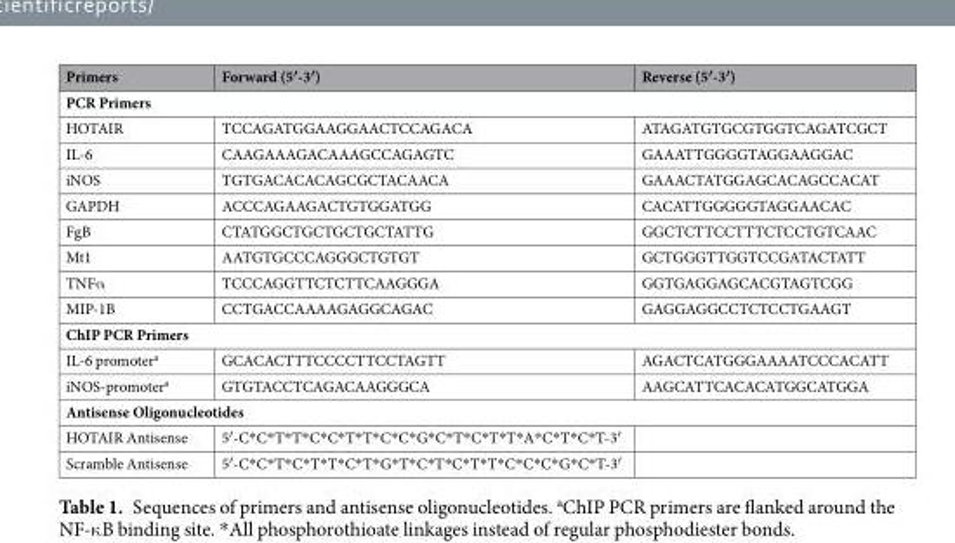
<table><thead><tr><td>Primers</td><td>Forward (5′-3′)</td><td>Reverse (5′-3′)</td></tr></thead><tbody><tr><td colspan="3">PCR Primers</td></tr><tr><td>HOTAIR</td><td>TCCAGATGGAAGGAACTCCAGACA</td><td>ATAGATGTGCGTGGTCAGATCGCT</td></tr><tr><td>IL-6</td><td>CAAGAAAGACAAAGCCAGAGTC</td><td>GAAATTGGGGTAGGAAGGAC</td></tr><tr><td>iNOS</td><td>TGTGACACACAGCGCTACAACA</td><td>GAAACTATGGAGCACAGCCACAT</td></tr><tr><td>GAPDH</td><td>ACCCAGAAGACTGTGGATGG</td><td>CACATTGGGGGTAGGAACAC</td></tr><tr><td>FgB</td><td>CTATGGCTGCTGCTGCTATTG</td><td>GGCTCTTCCTTTCTCCTGTCAAC</td></tr><tr><td>Mt1</td><td>AATGTGCCCAGGGCTGTGT</td><td>GCTGGGTTGGTCCGATACTATT</td></tr><tr><td>TNFα</td><td>TCCCAGGTTCTCTTCAAGGGA</td><td>GGTGAGGAGCACGTAGTCGG</td></tr><tr><td>MIP-1B</td><td>CCTGACCAAAAGAGGCAGAC</td><td>GAGGAGGCCTCTCCTGAAGT</td></tr><tr><td colspan="3">ChIP PCR Primers</td></tr><tr><td>IL-6 promoter<sup>a</sup></td><td>GCACACTTTCCCCTTCCTAGTT</td><td>AGACTCATGGGAAAATCCCACATT</td></tr><tr><td>iNOS-promoter<sup>a</sup></td><td>GTGTACCTCAGACAAGGGCA</td><td>AAGCATTCACACATGGCATGGA</td></tr><tr><td colspan="3">Antisense Oligonucleotides</td></tr><tr><td>HOTAIR Antisense</td><td>5′-C*C*T*T*C*C*T*T*C*C*G*C*T*C*T*T*A*C*T*C*T-3′</td><td></td></tr><tr><td>Scramble Antisense</td><td>5′-C*C*T*C*T*T*C*T*G*T*C*T*C*T*T*C*C*C*G*C*T-3′</td><td></td></tr></tbody></table>